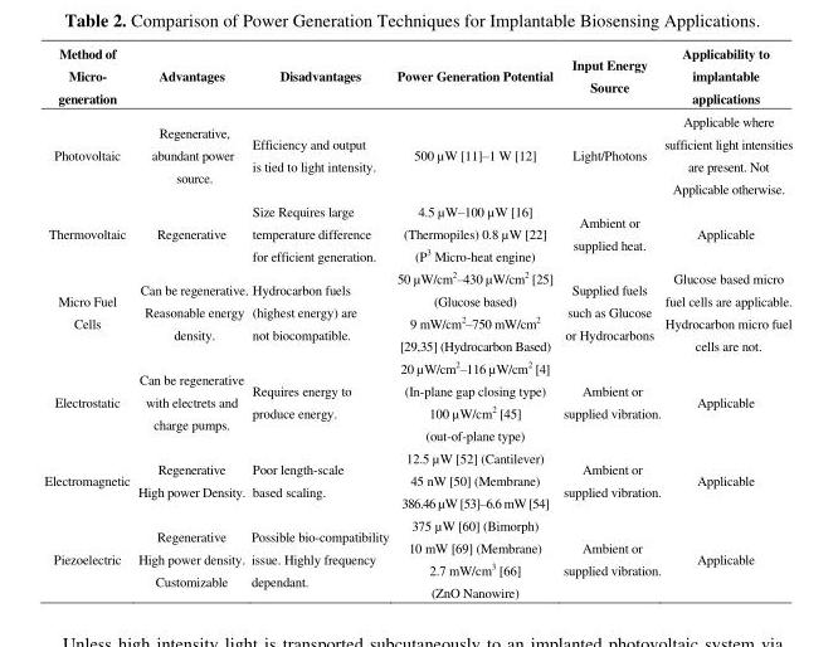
<table><thead><tr><td>Method of Micro- generation</td><td>Advantages</td><td>Disadvantages</td><td>Power Generation Potential</td><td>Input Energy Source</td><td>Applicability to implantable applications</td></tr></thead><tbody><tr><td>Photovoltaic</td><td>Regenerative, abundant power source.</td><td>Efficiency and output is tied to light intensity.</td><td>500 µW [11]–1 W [12]</td><td>Light/Photons</td><td>Applicable where sufficient light intensities are present. Not Applicable otherwise.</td></tr><tr><td>Thermovoltaic</td><td>Regenerative</td><td>Size Requires large temperature difference for efficient generation.</td><td>4.5 µW–100 µW [16] (Thermopiles) 0.8 µW [22] (P<sup>3</sup> Micro-heat engine)</td><td>Ambient or supplied heat.</td><td>Applicable</td></tr><tr><td>Micro Fuel Cells</td><td>Can be regenerative. Reasonable energy density.</td><td>Hydrocarbon fuels (highest energy) are not biocompatible.</td><td>50 µW/cm<sup>2</sup>–430 µW/cm<sup>2</sup> [25] (Glucose based) 9 mW/cm<sup>2</sup>–750 mW/cm<sup>2</sup> [29,35] (Hydrocarbon Based)</td><td>Supplied fuels such as Glucose or Hydrocarbons</td><td>Glucose based micro fuel cells are applicable. Hydrocarbon micro fuel cells are not.</td></tr><tr><td>Electrostatic</td><td>Can be regenerative with electrets and charge pumps.</td><td>Requires energy to produce energy.</td><td>20 µW/cm<sup>2</sup>–116 µW/cm<sup>2</sup> [4] (In-plane gap closing type) 100 µW/cm<sup>2</sup> [45] (out-of-plane type)</td><td>Ambient or supplied vibration.</td><td>Applicable</td></tr><tr><td>Electromagnetic</td><td>Regenerative High power Density.</td><td>Poor length-scale based scaling.</td><td>12.5 µW [52] (Cantilever) 45 nW [50] (Membrane) 386.46 µW [53]–6.6 mW [54]</td><td>Ambient or supplied vibration.</td><td>Applicable</td></tr><tr><td>Piezoelectric</td><td>Regenerative High power density. Customizable</td><td>Possible bio-compatibility issue. Highly frequency dependant.</td><td>375 µW [60] (Bimorph) 10 mW [69] (Membrane) 2.7 mW/cm<sup>3</sup> [66] (ZnO Nanowire)</td><td>Ambient or supplied vibration.</td><td>Applicable</td></tr></tbody></table>